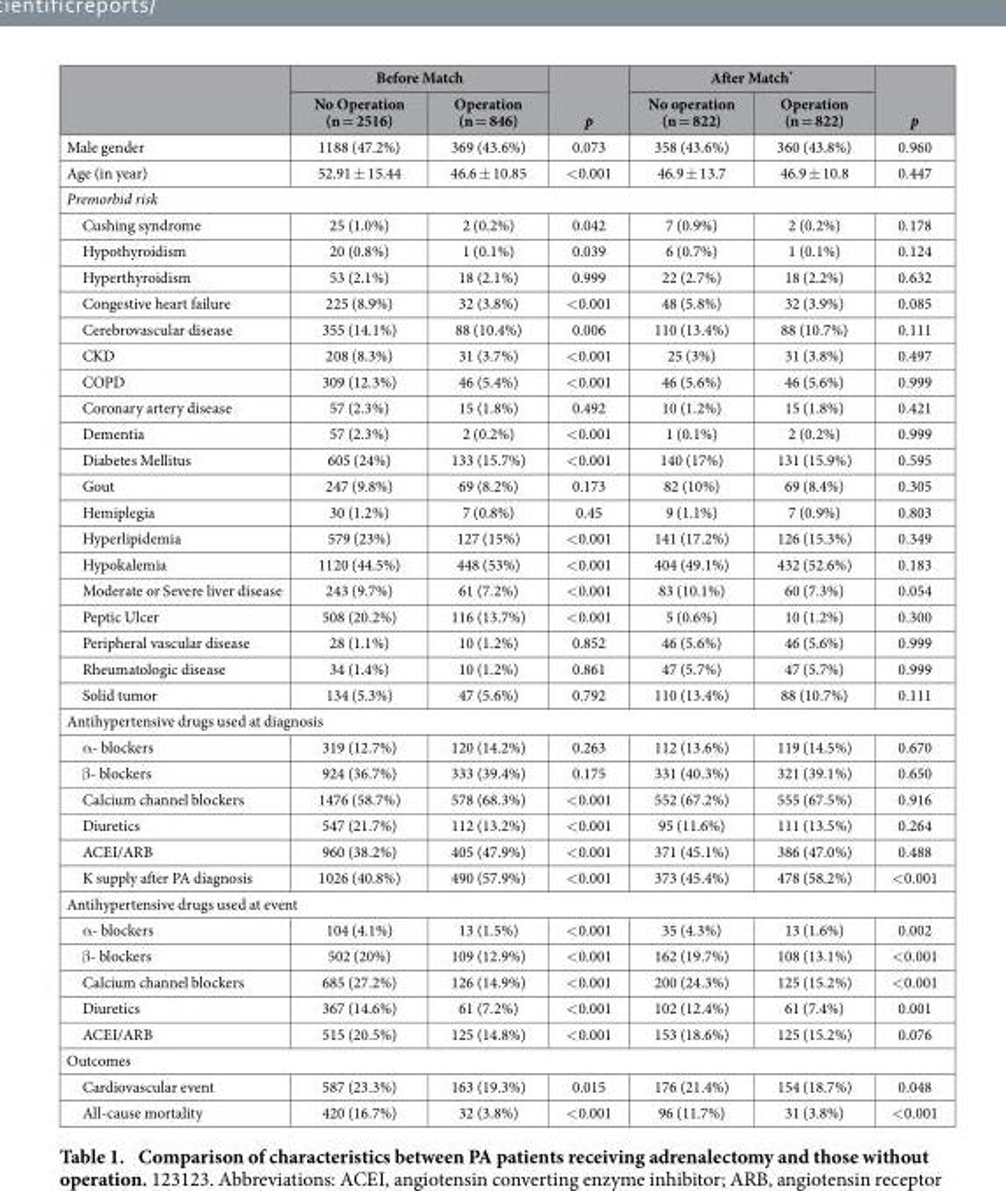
<table><thead><tr><td rowspan="2"></td><td colspan="2">Before Match</td><td rowspan="2">p</td><td colspan="2">After Match*</td><td rowspan="2">p</td></tr><tr><td>No Operation (n = 2516)</td><td>Operation (n = 846)</td><td>No operation (n = 822)</td><td>Operation (n = 822)</td></tr></thead><tbody><tr><td>Male gender</td><td>1188 (47.2%)</td><td>369 (43.6%)</td><td>0.073</td><td>358 (43.6%)</td><td>360 (43.8%)</td><td>0.960</td></tr><tr><td>Age (in year)</td><td>52.91 ± 15.44</td><td>46.6 ± 10.85</td><td>&lt; 0.001</td><td>46.9 ± 13.7</td><td>46.9 ± 10.8</td><td>0.447</td></tr><tr><td colspan="7">Premorbid risk</td></tr><tr><td>Cushing syndrome</td><td>25 (1.0%)</td><td>2 (0.2%)</td><td>0.042</td><td>7 (0.9%)</td><td>2 (0.2%)</td><td>0.178</td></tr><tr><td>Hypothyroidism</td><td>20 (0.8%)</td><td>1 (0.1%)</td><td>0.039</td><td>6 (0.7%)</td><td>1 (0.1%)</td><td>0.124</td></tr><tr><td>Hyperthyroidism</td><td>53 (2.1%)</td><td>18 (2.1%)</td><td>0.999</td><td>22 (2.7%)</td><td>18 (2.2%)</td><td>0.632</td></tr><tr><td>Congestive heart failure</td><td>225 (8.9%)</td><td>32 (3.8%)</td><td>&lt; 0.001</td><td>48 (5.8%)</td><td>32 (3.9%)</td><td>0.085</td></tr><tr><td>Cerebrovascular disease</td><td>355 (14.1%)</td><td>88 (10.4%)</td><td>0.006</td><td>110 (13.4%)</td><td>88 (10.7%)</td><td>0.111</td></tr><tr><td>CKD</td><td>208 (8.3%)</td><td>31 (3.7%)</td><td>&lt; 0.001</td><td>25 (3%)</td><td>31 (3.8%)</td><td>0.497</td></tr><tr><td>COPD</td><td>309 (12.3%)</td><td>46 (5.4%)</td><td>&lt; 0.001</td><td>46 (5.6%)</td><td>46 (5.6%)</td><td>0.999</td></tr><tr><td>Coronary artery disease</td><td>57 (2.3%)</td><td>15 (1.8%)</td><td>0.492</td><td>10 (1.2%)</td><td>15 (1.8%)</td><td>0.421</td></tr><tr><td>Dementia</td><td>57 (2.3%)</td><td>2 (0.2%)</td><td>&lt; 0.001</td><td>1 (0.1%)</td><td>2 (0.2%)</td><td>0.999</td></tr><tr><td>Diabetes Mellitus</td><td>605 (24%)</td><td>133 (15.7%)</td><td>&lt; 0.001</td><td>140 (17%)</td><td>131 (15.9%)</td><td>0.595</td></tr><tr><td>Gout</td><td>247 (9.8%)</td><td>69 (8.2%)</td><td>0.173</td><td>82 (10%)</td><td>69 (8.4%)</td><td>0.305</td></tr><tr><td>Hemiplegia</td><td>30 (1.2%)</td><td>7 (0.8%)</td><td>0.45</td><td>9 (1.1%)</td><td>7 (0.9%)</td><td>0.803</td></tr><tr><td>Hyperlipidemia</td><td>579 (23%)</td><td>127 (15%)</td><td>&lt; 0.001</td><td>141 (17.2%)</td><td>126 (15.3%)</td><td>0.349</td></tr><tr><td>Hypokalemia</td><td>1120 (44.5%)</td><td>448 (53%)</td><td>&lt; 0.001</td><td>404 (49.1%)</td><td>432 (52.6%)</td><td>0.183</td></tr><tr><td>Moderate or Severe liver disease</td><td>243 (9.7%)</td><td>61 (7.2%)</td><td>&lt; 0.001</td><td>83 (10.1%)</td><td>60 (7.3%)</td><td>0.054</td></tr><tr><td>Peptic Ulcer</td><td>508 (20.2%)</td><td>116 (13.7%)</td><td>&lt; 0.001</td><td>5 (0.6%)</td><td>10 (1.2%)</td><td>0.300</td></tr><tr><td>Peripheral vascular disease</td><td>28 (1.1%)</td><td>10 (1.2%)</td><td>0.852</td><td>46 (5.6%)</td><td>46 (5.6%)</td><td>0.999</td></tr><tr><td>Rheumatologic disease</td><td>34 (1.4%)</td><td>10 (1.2%)</td><td>0.861</td><td>47 (5.7%)</td><td>47 (5.7%)</td><td>0.999</td></tr><tr><td>Solid tumor</td><td>134 (5.3%)</td><td>47 (5.6%)</td><td>0.792</td><td>110 (13.4%)</td><td>88 (10.7%)</td><td>0.111</td></tr><tr><td colspan="7">Antihypertensive drugs used at diagnosis</td></tr><tr><td>α - blockers</td><td>319 (12.7%)</td><td>120 (14.2%)</td><td>0.263</td><td>112 (13.6%)</td><td>119 (14.5%)</td><td>0.670</td></tr><tr><td>β - blockers</td><td>924 (36.7%)</td><td>333 (39.4%)</td><td>0.175</td><td>331 (40.3%)</td><td>321 (39.1%)</td><td>0.650</td></tr><tr><td>Calcium channel blockers</td><td>1476 (58.7%)</td><td>578 (68.3%)</td><td>&lt; 0.001</td><td>552 (67.2%)</td><td>555 (67.5%)</td><td>0.916</td></tr><tr><td>Diuretics</td><td>547 (21.7%)</td><td>112 (13.2%)</td><td>&lt; 0.001</td><td>95 (11.6%)</td><td>111 (13.5%)</td><td>0.264</td></tr><tr><td>ACEI/ARB</td><td>960 (38.2%)</td><td>405 (47.9%)</td><td>&lt; 0.001</td><td>371 (45.1%)</td><td>386 (47.0%)</td><td>0.488</td></tr><tr><td>K supply after PA diagnosis</td><td>1026 (40.8%)</td><td>490 (57.9%)</td><td>&lt; 0.001</td><td>373 (45.4%)</td><td>478 (58.2%)</td><td>&lt; 0.001</td></tr><tr><td colspan="7">Antihypertensive drugs used at event</td></tr><tr><td>α - blockers</td><td>104 (4.1%)</td><td>13 (1.5%)</td><td>&lt; 0.001</td><td>35 (4.3%)</td><td>13 (1.6%)</td><td>0.002</td></tr><tr><td>β - blockers</td><td>502 (20%)</td><td>109 (12.9%)</td><td>&lt; 0.001</td><td>162 (19.7%)</td><td>108 (13.1%)</td><td>&lt; 0.001</td></tr><tr><td>Calcium channel blockers</td><td>685 (27.2%)</td><td>126 (14.9%)</td><td>&lt; 0.001</td><td>200 (24.3%)</td><td>125 (15.2%)</td><td>&lt; 0.001</td></tr><tr><td>Diuretics</td><td>367 (14.6%)</td><td>61 (7.2%)</td><td>&lt; 0.001</td><td>102 (12.4%)</td><td>61 (7.4%)</td><td>0.001</td></tr><tr><td>ACEI/ARB</td><td>515 (20.5%)</td><td>125 (14.8%)</td><td>&lt; 0.001</td><td>153 (18.6%)</td><td>125 (15.2%)</td><td>0.076</td></tr><tr><td colspan="7">Outcomes</td></tr><tr><td>Cardiovascular event</td><td>587 (23.3%)</td><td>163 (19.3%)</td><td>0.015</td><td>176 (21.4%)</td><td>154 (18.7%)</td><td>0.048</td></tr><tr><td>All-cause mortality</td><td>420 (16.7%)</td><td>32 (3.8%)</td><td>&lt; 0.001</td><td>96 (11.7%)</td><td>31 (3.8%)</td><td>&lt; 0.001</td></tr></tbody></table>